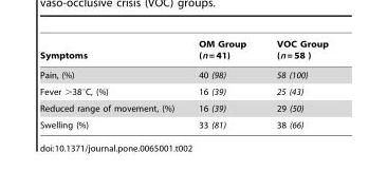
<table><thead><tr><td>Symptoms</td><td>OM Group (n = 41)</td><td>VOC Group (n = 58 )</td></tr></thead><tbody><tr><td>Pain, (%)</td><td>40 (98)</td><td>58 (100)</td></tr><tr><td>Fever &gt;38°C, (%)</td><td>16 (39)</td><td>25 (43)</td></tr><tr><td>Reduced range of movement, (%)</td><td>16 (39)</td><td>29 (50)</td></tr><tr><td>Swelling (%)</td><td>33 (81)</td><td>38 (66)</td></tr></tbody></table>